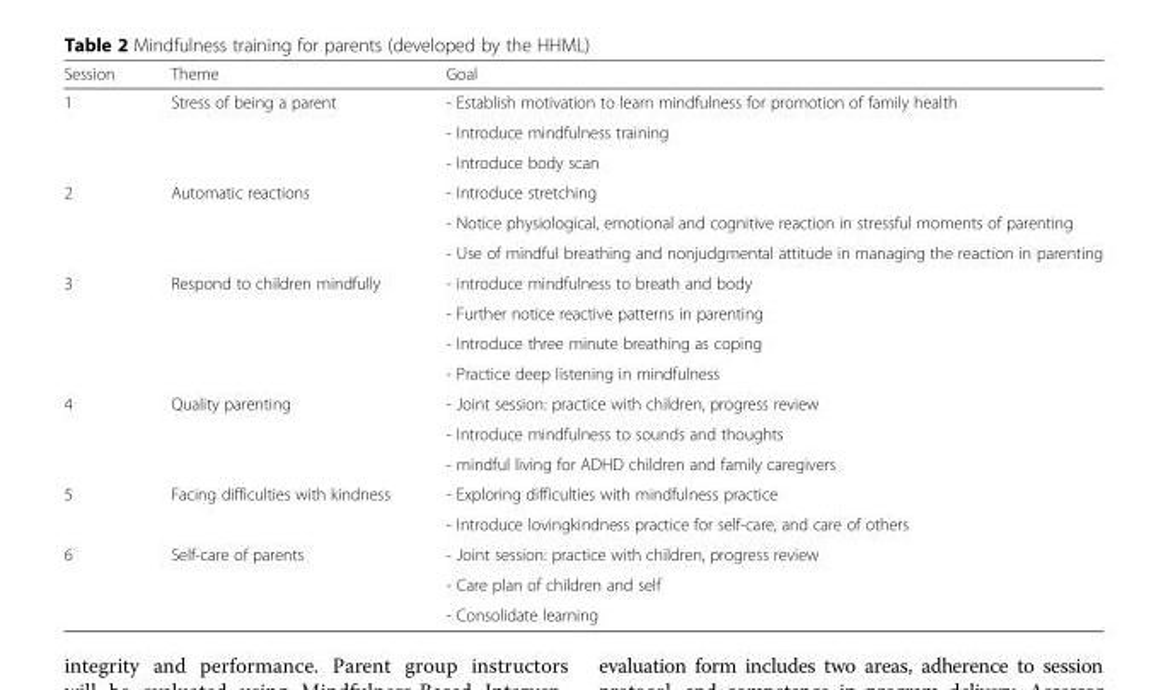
<table><thead><tr><td>Session</td><td>Theme</td><td>Goal</td></tr></thead><tbody><tr><td rowspan="3">1</td><td rowspan="3">Stress of being a parent</td><td>- Establish motivation to learn mindfulness for promotion of family health</td></tr><tr><td>- Introduce mindfulness training</td></tr><tr><td>- Introduce body scan</td></tr><tr><td rowspan="3">2</td><td rowspan="3">Automatic reactions</td><td>- Introduce stretching</td></tr><tr><td>- Notice physiological, emotional and cognitive reaction in stressful moments of parenting</td></tr><tr><td>- Use of mindful breathing and nonjudgmental attitude in managing the reaction in parenting</td></tr><tr><td rowspan="4">3</td><td rowspan="4">Respond to children mindfully</td><td>- introduce mindfulness to breath and body</td></tr><tr><td>- Further notice reactive patterns in parenting</td></tr><tr><td>- Introduce three minute breathing as coping</td></tr><tr><td>- Practice deep listening in mindfulness</td></tr><tr><td rowspan="3">4</td><td rowspan="3">Quality parenting</td><td>- Joint session: practice with children, progress review</td></tr><tr><td>- Introduce mindfulness to sounds and thoughts</td></tr><tr><td>- mindful living for ADHD children and family caregivers</td></tr><tr><td rowspan="2">5</td><td rowspan="2">Facing difficulties with kindness</td><td>- Exploring difficulties with mindfulness practice</td></tr><tr><td>- Introduce lovingkindness practice for self-care, and care of others</td></tr><tr><td rowspan="3">6</td><td rowspan="3">Self-care of parents</td><td>- Joint session: practice with children, progress review</td></tr><tr><td>- Care plan of children and self</td></tr><tr><td>- Consolidate learning</td></tr></tbody></table>